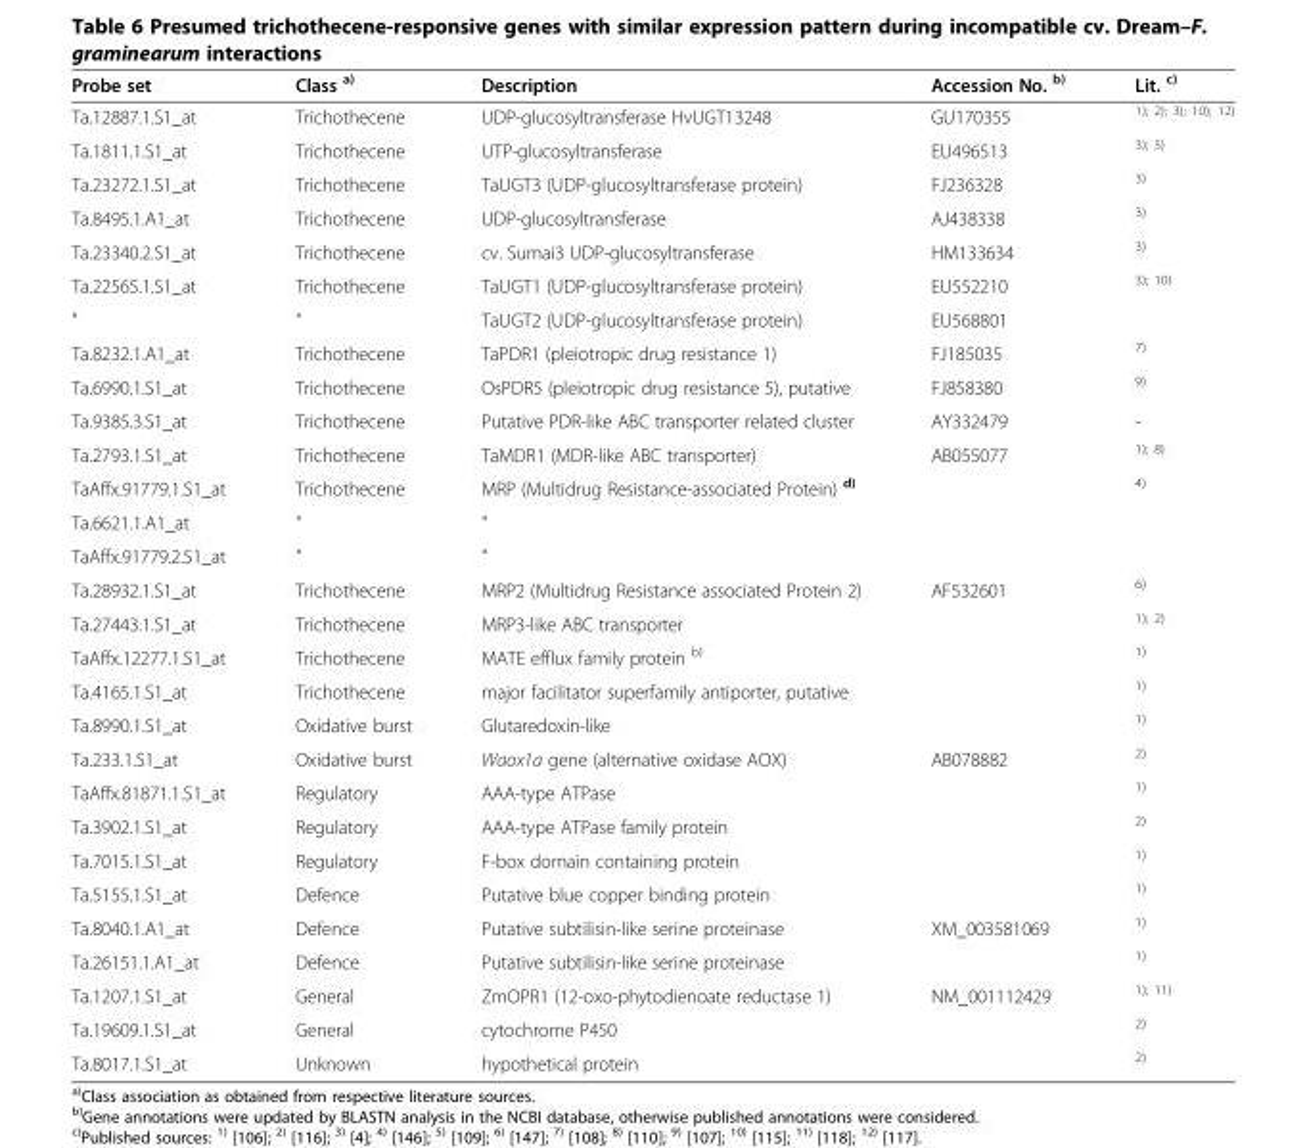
<table><thead><tr><td>Probe set</td><td>Class <sup>a)</sup></td><td>Description</td><td>Accession No. <sup>b)</sup></td><td>Lit. <sup>c)</sup></td></tr></thead><tbody><tr><td>Ta.12887.1.S1_at</td><td>Trichothecene</td><td>UDP-glucosyltransferase HvUGT13248</td><td>GU170355</td><td><sup>1); 2); 3); 10); 12)</sup></td></tr><tr><td>Ta.1811.1.S1_at</td><td>Trichothecene</td><td>UTP-glucosyltransferase</td><td>EU496513</td><td><sup>3); 5)</sup></td></tr><tr><td>Ta.23272.1.S1_at</td><td>Trichothecene</td><td>TaUGT3 (UDP-glucosyltransferase protein)</td><td>FJ236328</td><td><sup>3)</sup></td></tr><tr><td>Ta.8495.1.A1_at</td><td>Trichothecene</td><td>UDP-glucosyltransferase</td><td>AJ438338</td><td><sup>3)</sup></td></tr><tr><td>Ta.23340.2.S1_at</td><td>Trichothecene</td><td>cv. Sumai3 UDP-glucosyltransferase</td><td>HM133634</td><td><sup>3)</sup></td></tr><tr><td>Ta.22565.1.S1_at</td><td>Trichothecene</td><td>TaUGT1 (UDP-glucosyltransferase protein)</td><td>EU552210</td><td><sup>3); 10)</sup></td></tr><tr><td>&quot;</td><td>&quot;</td><td>TaUGT2 (UDP-glucosyltransferase protein)</td><td>EU568801</td><td></td></tr><tr><td>Ta.8232.1.A1_at</td><td>Trichothecene</td><td>TaPDR1 (pleiotropic drug resistance 1)</td><td>FJ185035</td><td><sup>7)</sup></td></tr><tr><td>Ta.6990.1.S1_at</td><td>Trichothecene</td><td>OsPDR5 (pleiotropic drug resistance 5), putative</td><td>FJ858380</td><td><sup>9)</sup></td></tr><tr><td>Ta.9385.3.S1_at</td><td>Trichothecene</td><td>Putative PDR-like ABC transporter related cluster</td><td>AY332479</td><td>-</td></tr><tr><td>Ta.2793.1.S1_at</td><td>Trichothecene</td><td>TaMDR1 (MDR-like ABC transporter)</td><td>AB055077</td><td><sup>1); 8)</sup></td></tr><tr><td>TaAffx.91779.1.S1_at</td><td>Trichothecene</td><td>MRP (Multidrug Resistance-associated Protein) <sup>d)</sup></td><td></td><td><sup>4)</sup></td></tr><tr><td>Ta.6621.1.A1_at</td><td>&quot;</td><td>&quot;</td><td></td><td></td></tr><tr><td>TaAffx.91779.2.S1_at</td><td>&quot;</td><td>&quot;</td><td></td><td></td></tr><tr><td>Ta.28932.1.S1_at</td><td>Trichothecene</td><td>MRP2 (Multidrug Resistance associated Protein 2)</td><td>AF532601</td><td><sup>6)</sup></td></tr><tr><td>Ta.27443.1.S1_at</td><td>Trichothecene</td><td>MRP3-like ABC transporter</td><td></td><td><sup>1); 2)</sup></td></tr><tr><td>TaAffx.12277.1.S1_at</td><td>Trichothecene</td><td>MATE efflux family protein <sup>b)</sup></td><td></td><td><sup>1)</sup></td></tr><tr><td>Ta.4165.1.S1_at</td><td>Trichothecene</td><td>major facilitator superfamily antiporter, putative</td><td></td><td><sup>1)</sup></td></tr><tr><td>Ta.8990.1.S1_at</td><td>Oxidative burst</td><td>Glutaredoxin-like</td><td></td><td><sup>1)</sup></td></tr><tr><td>Ta.233.1.S1_at</td><td>Oxidative burst</td><td>Waox1a gene (alternative oxidase AOX)</td><td>AB078882</td><td><sup>2)</sup></td></tr><tr><td>TaAffx.81871.1.S1_at</td><td>Regulatory</td><td>AAA-type ATPase</td><td></td><td><sup>1)</sup></td></tr><tr><td>Ta.3902.1.S1_at</td><td>Regulatory</td><td>AAA-type ATPase family protein</td><td></td><td><sup>2)</sup></td></tr><tr><td>Ta.7015.1.S1_at</td><td>Regulatory</td><td>F-box domain containing protein</td><td></td><td><sup>1)</sup></td></tr><tr><td>Ta.5155.1.S1_at</td><td>Defence</td><td>Putative blue copper binding protein</td><td></td><td><sup>1)</sup></td></tr><tr><td>Ta.8040.1.A1_at</td><td>Defence</td><td>Putative subtilisin-like serine proteinase</td><td>XM_003581069</td><td><sup>1)</sup></td></tr><tr><td>Ta.26151.1.A1_at</td><td>Defence</td><td>Putative subtilisin-like serine proteinase</td><td></td><td><sup>1)</sup></td></tr><tr><td>Ta.1207.1.S1_at</td><td>General</td><td>ZmOPR1 (12-oxo-phytodienoate reductase 1)</td><td>NM_001112429</td><td><sup>1); 11)</sup></td></tr><tr><td>Ta.19609.1.S1_at</td><td>General</td><td>cytochrome P450</td><td></td><td><sup>2)</sup></td></tr><tr><td>Ta.8017.1.S1_at</td><td>Unknown</td><td>hypothetical protein</td><td></td><td><sup>2)</sup></td></tr></tbody></table>